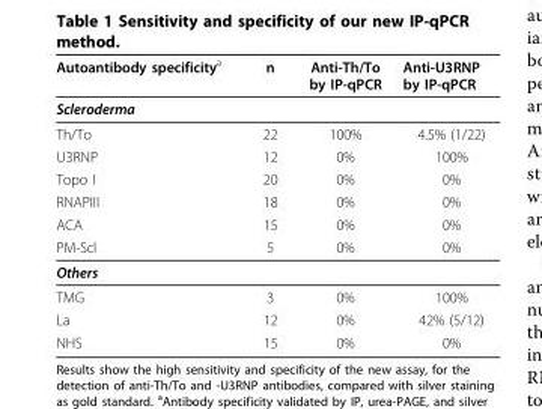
<table><thead><tr><td>Autoantibody specificity<sup>a</sup></td><td>n</td><td>Anti-Th/To by IP-qPCR</td><td>Anti-U3RNP by IP-qPCR</td></tr></thead><tbody><tr><td colspan="4">Scleroderma</td></tr><tr><td>Th/To</td><td>22</td><td>100%</td><td>4.5% (1/22)</td></tr><tr><td>U3RNP</td><td>12</td><td>0%</td><td>100%</td></tr><tr><td>Topo I</td><td>20</td><td>0%</td><td>0%</td></tr><tr><td>RNAPIII</td><td>18</td><td>0%</td><td>0%</td></tr><tr><td>ACA</td><td>15</td><td>0%</td><td>0%</td></tr><tr><td>PM-Scl</td><td>5</td><td>0%</td><td>0%</td></tr><tr><td colspan="4">Others</td></tr><tr><td>TMG</td><td>3</td><td>0%</td><td>100%</td></tr><tr><td>La</td><td>12</td><td>0%</td><td>42% (5/12)</td></tr><tr><td>NHS</td><td>15</td><td>0%</td><td>0%</td></tr></tbody></table>